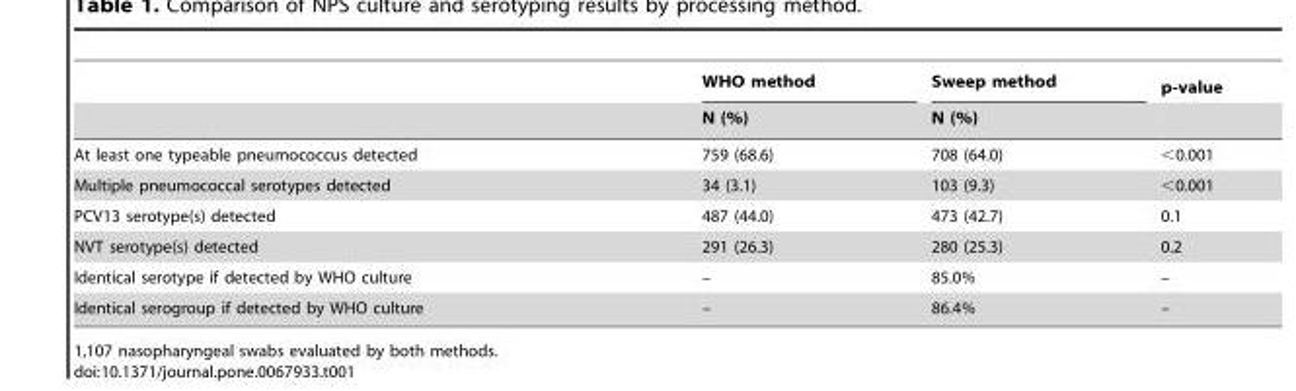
<table><thead><tr><td rowspan="2"></td><td rowspan="2">WHO method N (%)</td><td rowspan="2">Sweep method N (%)</td><td rowspan="2">p-value</td></tr><tr></tr></thead><tbody><tr><td>At least one typeable pneumococcus detected</td><td>759 (68.6)</td><td>708 (64.0)</td><td>&lt;0.001</td></tr><tr><td>Multiple pneumococcal serotypes detected</td><td>34 (3.1)</td><td>103 (9.3)</td><td>&lt;0.001</td></tr><tr><td>PCV13 serotype(s) detected</td><td>487 (44.0)</td><td>473 (42.7)</td><td>0.1</td></tr><tr><td>NVT serotype(s) detected</td><td>291 (26.3)</td><td>280 (25.3)</td><td>0.2</td></tr><tr><td>Identical serotype if detected by WHO culture</td><td>–</td><td>85.0%</td><td>–</td></tr><tr><td>Identical serogroup if detected by WHO culture</td><td>–</td><td>86.4%</td><td>–</td></tr></tbody></table>